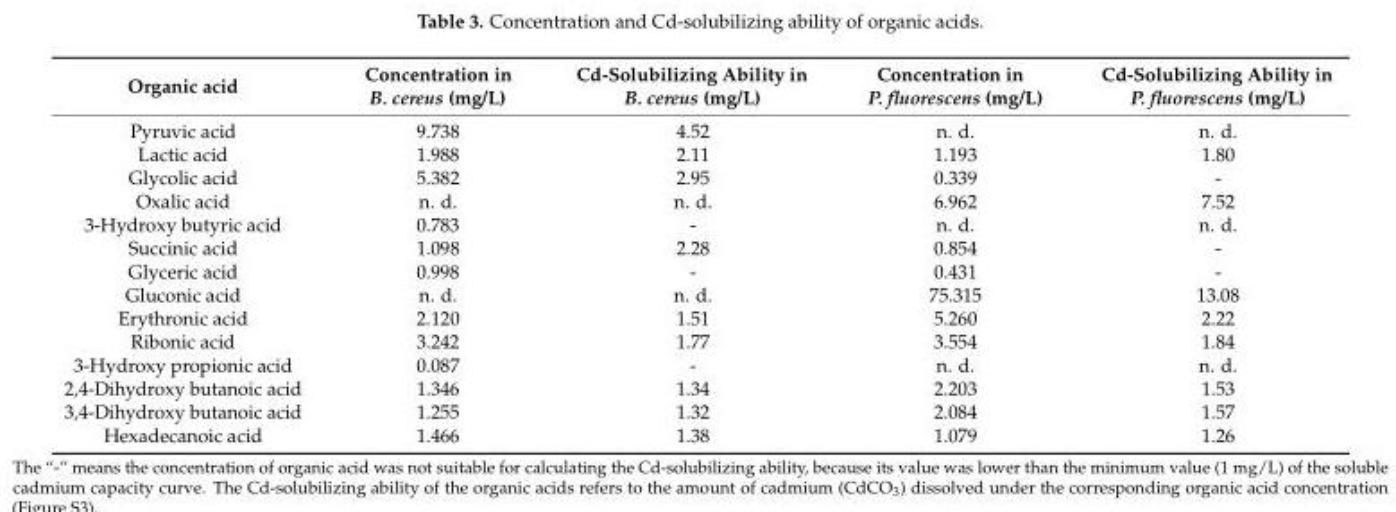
<table><thead><tr><td>Organic acid</td><td>Concentration in B. cereus (mg/L)</td><td>Cd-Solubilizing Ability in B. cereus (mg/L)</td><td>Concentration in P. fluorescens (mg/L)</td><td>Cd-Solubilizing Ability in P. fluorescens (mg/L)</td></tr></thead><tbody><tr><td>Pyruvic acid</td><td>9.738</td><td>4.52</td><td>n. d.</td><td>n. d.</td></tr><tr><td>Lactic acid</td><td>1.988</td><td>2.11</td><td>1.193</td><td>1.80</td></tr><tr><td>Glycolic acid</td><td>5.382</td><td>2.95</td><td>0.339</td><td>-</td></tr><tr><td>Oxalic acid</td><td>n. d.</td><td>n. d.</td><td>6.962</td><td>7.52</td></tr><tr><td>3-Hydroxy butyric acid</td><td>0.783</td><td>-</td><td>n. d.</td><td>n. d.</td></tr><tr><td>Succinic acid</td><td>1.098</td><td>2.28</td><td>0.854</td><td>-</td></tr><tr><td>Glyceric acid</td><td>0.998</td><td>-</td><td>0.431</td><td>-</td></tr><tr><td>Gluconic acid</td><td>n. d.</td><td>n. d.</td><td>75.315</td><td>13.08</td></tr><tr><td>Erythronic acid</td><td>2.120</td><td>1.51</td><td>5.260</td><td>2.22</td></tr><tr><td>Ribonic acid</td><td>3.242</td><td>1.77</td><td>3.554</td><td>1.84</td></tr><tr><td>3-Hydroxy propionic acid</td><td>0.087</td><td>-</td><td>n. d.</td><td>n. d.</td></tr><tr><td>2,4-Dihydroxy butanoic acid</td><td>1.346</td><td>1.34</td><td>2.203</td><td>1.53</td></tr><tr><td>3,4-Dihydroxy butanoic acid</td><td>1.255</td><td>1.32</td><td>2.084</td><td>1.57</td></tr><tr><td>Hexadecanoic acid</td><td>1.466</td><td>1.38</td><td>1.079</td><td>1.26</td></tr></tbody></table>